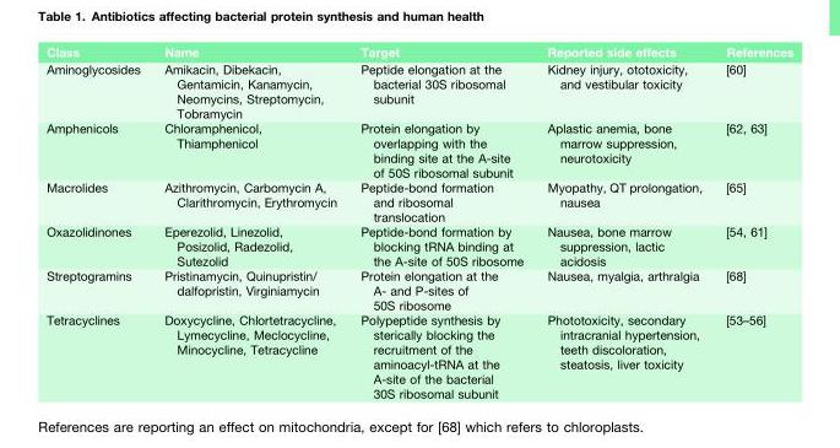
<table><thead><tr><td>Class</td><td>Name</td><td>Target</td><td>Reported side effects</td><td>References</td></tr></thead><tbody><tr><td>Aminoglycosides</td><td>Amikacin, Dibekacin, Gentamicin, Kanamycin, Neomycins, Streptomycin, Tobramycin</td><td>Peptide elongation at the bacterial 30S ribosomal subunit</td><td>Kidney injury, ototoxicity, and vestibular toxicity</td><td>[60]</td></tr><tr><td>Amphenicols</td><td>Chloramphenicol, Thiamphenicol</td><td>Protein elongation by overlapping with the binding site at the A-site of 50S ribosomal subunit</td><td>Aplastic anemia, bone marrow suppression, neurotoxicity</td><td>[62, 63]</td></tr><tr><td>Macrolides</td><td>Azithromycin, Carbomycin A, Clarithromycin, Erythromycin</td><td>Peptide-bond formation and ribosomal translocation</td><td>Myopathy, QT prolongation, nausea</td><td>[65]</td></tr><tr><td>Oxazolidinones</td><td>Eperezolid, Linezolid, Posizolid, Radezolid, Sutezolid</td><td>Peptide-bond formation by blocking tRNA binding at the A-site of 50S ribosome</td><td>Nausea, bone marrow suppression, lactic acidosis</td><td>[54, 61]</td></tr><tr><td>Streptogramins</td><td>Pristinamycin, Quinupristin/ dalfopristin, Virginiamycin</td><td>Protein elongation at the A- and P-sites of 50S ribosome</td><td>Nausea, myalgia, arthralgia</td><td>[68]</td></tr><tr><td>Tetracyclines</td><td>Doxycycline, Chlortetracycline, Lymecycline, Meclocycline, Minocycline, Tetracycline</td><td>Polypeptide synthesis by sterically blocking the recruitment of the aminoacyl-tRNA at the A-site of the bacterial 30S ribosomal subunit</td><td>Phototoxicity, secondary intracranial hypertension, teeth discoloration, steatosis, liver toxicity</td><td>[53–56]</td></tr></tbody></table>